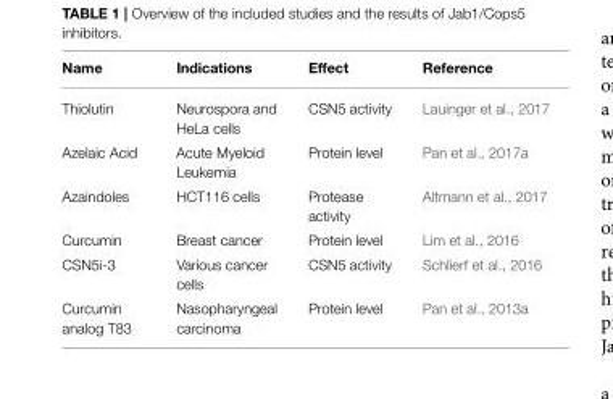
<table><thead><tr><td>Name</td><td>Indications</td><td>Effect</td><td>Reference</td></tr></thead><tbody><tr><td>Thiolutin</td><td>Neurospora and HeLa cells</td><td>CSN5 activity</td><td>Lauinger et al., 2017</td></tr><tr><td>Azelaic Acid</td><td>Acute Myeloid Leukemia</td><td>Protein level</td><td>Pan et al., 2017a</td></tr><tr><td>Azaindoles</td><td>HCT116 cells</td><td>Protease activity</td><td>Altmann et al., 2017</td></tr><tr><td>Curcumin</td><td>Breast cancer</td><td>Protein level</td><td>Lim et al., 2016</td></tr><tr><td>CSN5i-3</td><td>Various cancer cells</td><td>CSN5 activity</td><td>Schlierf et al., 2016</td></tr><tr><td>Curcumin analog T83</td><td>Nasopharyngeal carcinoma</td><td>Protein level</td><td>Pan et al., 2013a</td></tr></tbody></table>